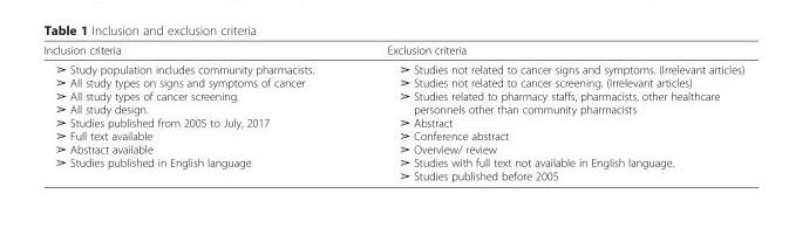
<table><thead><tr><td>Inclusion criteria</td><td>Exclusion criteria</td></tr></thead><tbody><tr><td>➢ Study population includes community pharmacists. ➢ All study types on signs and symptoms of cancer ➢ All study types of cancer screening. ➢ All study design. ➢ Studies published from 2005 to July, 2017 ➢ Full text available ➢ Abstract available ➢ Studies published in English language</td><td>➢ Studies not related to cancer signs and symptoms. (Irrelevant articles) ➢ Studies not related to cancer screening. (Irrelevant articles) ➢ Studies related to pharmacy staffs, pharmacists, other healthcare personnels other than community pharmacists ➢ Abstract ➢ Conference abstract ➢ Overview/ review ➢ Studies with full text not available in English language. ➢ Studies published before 2005</td></tr></tbody></table>